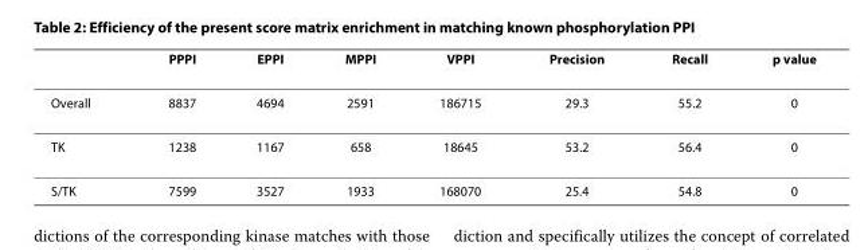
<table><thead><tr><td></td><td>PPPI</td><td>EPPI</td><td>MPPI</td><td>VPPI</td><td>Precision</td><td>Recall</td><td>p value</td></tr></thead><tbody><tr><td>Overall</td><td>8837</td><td>4694</td><td>2591</td><td>186715</td><td>29.3</td><td>55.2</td><td>0</td></tr><tr><td>TK</td><td>1238</td><td>1167</td><td>658</td><td>18645</td><td>53.2</td><td>56.4</td><td>0</td></tr><tr><td>S/TK</td><td>7599</td><td>3527</td><td>1933</td><td>168070</td><td>25.4</td><td>54.8</td><td>0</td></tr></tbody></table>